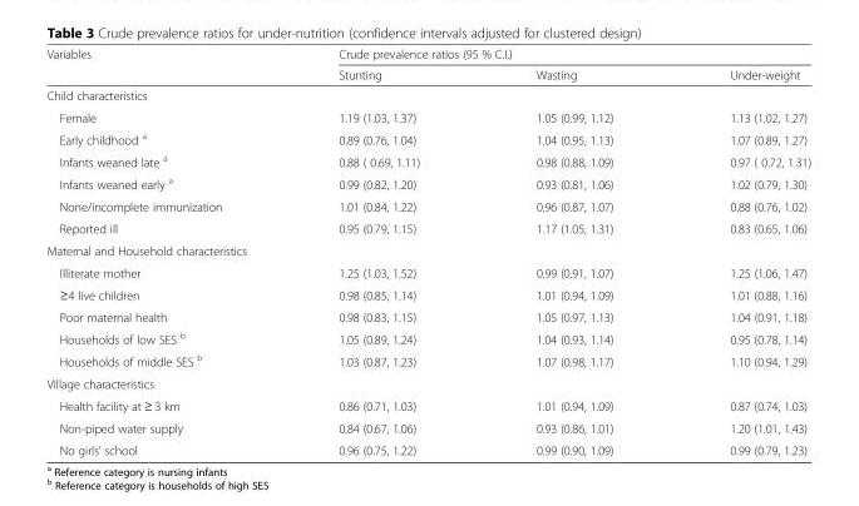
<table><thead><tr><td rowspan="2">Variables</td><td colspan="3">Crude prevalence ratios (95 % C.I.)</td></tr><tr><td>Stunting</td><td>Wasting</td><td>Under-weight</td></tr></thead><tbody><tr><td colspan="4">Child characteristics</td></tr><tr><td>Female</td><td>1.19 (1.03, 1.37)</td><td>1.05 (0.99, 1.12)</td><td>1.13 (1.02, 1.27)</td></tr><tr><td>Early childhood <sup>a</sup></td><td>0.89 (0.76, 1.04)</td><td>1.04 (0.95, 1.13)</td><td>1.07 (0.89, 1.27)</td></tr><tr><td>Infants weaned late <sup>a</sup></td><td>0.88 ( 0.69, 1.11)</td><td>0.98 (0.88, 1.09)</td><td>0.97 ( 0.72, 1.31)</td></tr><tr><td>Infants weaned early <sup>a</sup></td><td>0.99 (0.82, 1.20)</td><td>0.93 (0.81, 1.06)</td><td>1.02 (0.79, 1.30)</td></tr><tr><td>None/incomplete immunization</td><td>1.01 (0.84, 1.22)</td><td>0.96 (0.87, 1.07)</td><td>0.88 (0.76, 1.02)</td></tr><tr><td>Reported ill</td><td>0.95 (0.79, 1.15)</td><td>1.17 (1.05, 1.31)</td><td>0.83 (0.65, 1.06)</td></tr><tr><td colspan="4">Maternal and Household characteristics</td></tr><tr><td>Illiterate mother</td><td>1.25 (1.03, 1.52)</td><td>0.99 (0.91, 1.07)</td><td>1.25 (1.06, 1.47)</td></tr><tr><td>≥4 live children</td><td>0.98 (0.85, 1.14)</td><td>1.01 (0.94, 1.09)</td><td>1.01 (0.88, 1.16)</td></tr><tr><td>Poor maternal health</td><td>0.98 (0.83, 1.15)</td><td>1.05 (0.97, 1.13)</td><td>1.04 (0.91, 1.18)</td></tr><tr><td>Households of low SES <sup>b</sup></td><td>1.05 (0.89, 1.24)</td><td>1.04 (0.93, 1.14)</td><td>0.95 (0.78, 1.14)</td></tr><tr><td>Households of middle SES <sup>b</sup></td><td>1.03 (0.87, 1.23)</td><td>1.07 (0.98, 1.17)</td><td>1.10 (0.94, 1.29)</td></tr><tr><td colspan="4">Village characteristics</td></tr><tr><td>Health facility at ≥ 3 km</td><td>0.86 (0.71, 1.03)</td><td>1.01 (0.94, 1.09)</td><td>0.87 (0.74, 1.03)</td></tr><tr><td>Non-piped water supply</td><td>0.84 (0.67, 1.06)</td><td>0.93 (0.86, 1.01)</td><td>1.20 (1.01, 1.43)</td></tr><tr><td>No girls’ school</td><td>0.96 (0.75, 1.22)</td><td>0.99 (0.90, 1.09)</td><td>0.99 (0.79, 1.23)</td></tr></tbody></table>